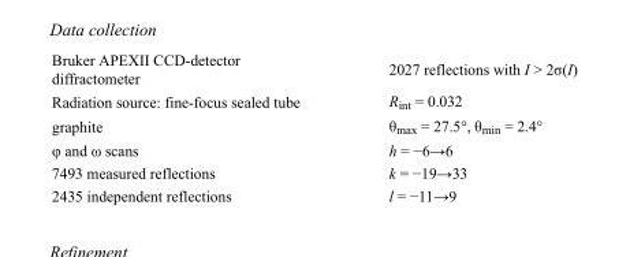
<table><tbody><tr><td>Bruker APEXII CCD-detector diffractometer</td><td>2027 reflections with I &gt; 2σ(I)</td></tr><tr><td>Radiation source: fine-focus sealed tube</td><td>R<sub>int</sub> = 0.032</td></tr><tr><td>graphite</td><td>θ<sub>max</sub> = 27.5°, θ<sub>min</sub> = 2.4°</td></tr><tr><td>φ and ω scans</td><td>h = −6→6</td></tr><tr><td>7493 measured reflections</td><td>k = −19→33</td></tr><tr><td>2435 independent reflections</td><td>l = −11→9</td></tr></tbody></table>